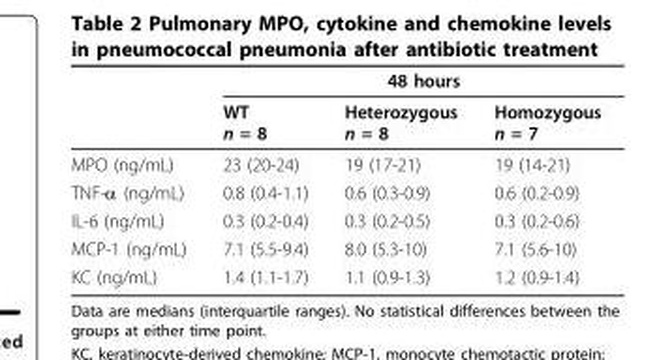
<table><thead><tr><td rowspan="2"></td><td colspan="3">48 hours</td></tr><tr><td>WT n = 8</td><td>Heterozygous n = 8</td><td>Homozygous n = 7</td></tr></thead><tbody><tr><td>MPO (ng/mL)</td><td>23 (20-24)</td><td>19 (17-21)</td><td>19 (14-21)</td></tr><tr><td>TNF-α (ng/mL)</td><td>0.8 (0.4-1.1)</td><td>0.6 (0.3-0.9)</td><td>0.6 (0.2-0.9)</td></tr><tr><td>IL-6 (ng/mL)</td><td>0.3 (0.2-0.4)</td><td>0.3 (0.2-0.5)</td><td>0.3 (0.2-0.6)</td></tr><tr><td>MCP-1 (ng/mL)</td><td>7.1 (5.5-9.4)</td><td>8.0 (5.3-10)</td><td>7.1 (5.6-10)</td></tr><tr><td>KC (ng/mL)</td><td>1.4 (1.1-1.7)</td><td>1.1 (0.9-1.3)</td><td>1.2 (0.9-1.4)</td></tr></tbody></table>